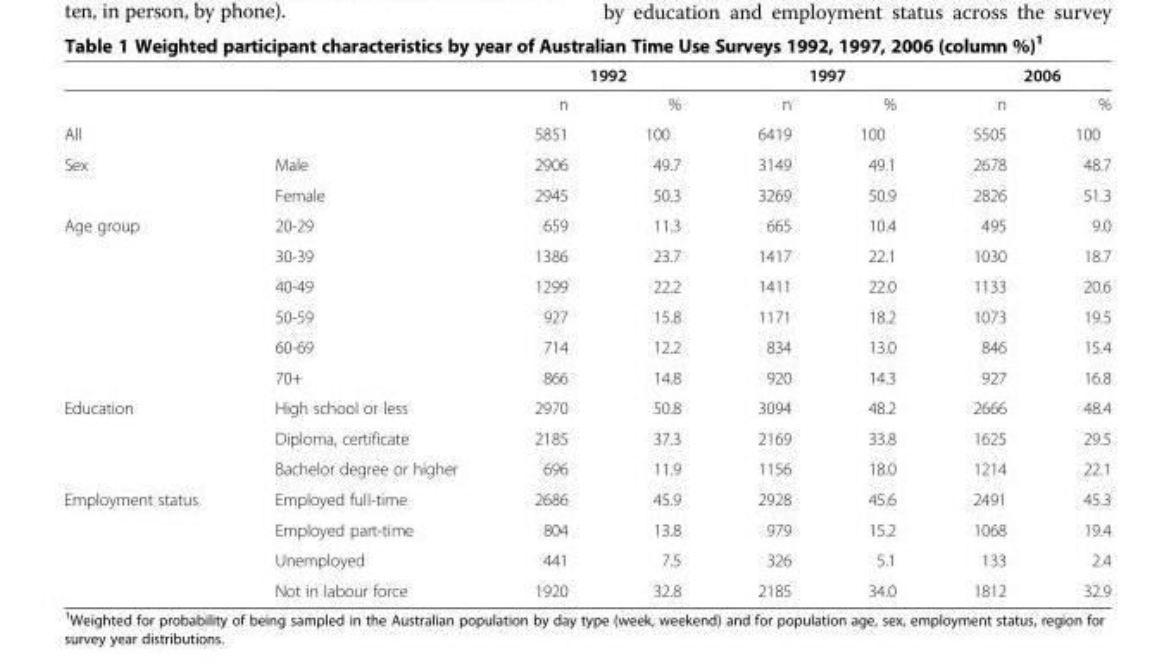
<table><thead><tr><td rowspan="2"></td><td rowspan="2"></td><td colspan="2">1992</td><td colspan="2">1997</td><td colspan="2">2006</td></tr><tr><td>n</td><td>%</td><td>n</td><td>%</td><td>n</td><td>%</td></tr></thead><tbody><tr><td>All</td><td></td><td>5851</td><td>100</td><td>6419</td><td>100</td><td>5505</td><td>100</td></tr><tr><td rowspan="2">Sex</td><td>Male</td><td>2906</td><td>49.7</td><td>3149</td><td>49.1</td><td>2678</td><td>48.7</td></tr><tr><td>Female</td><td>2945</td><td>50.3</td><td>3269</td><td>50.9</td><td>2826</td><td>51.3</td></tr><tr><td rowspan="6">Age group</td><td>20-29</td><td>659</td><td>11.3</td><td>665</td><td>10.4</td><td>495</td><td>9.0</td></tr><tr><td>30-39</td><td>1386</td><td>23.7</td><td>1417</td><td>22.1</td><td>1030</td><td>18.7</td></tr><tr><td>40-49</td><td>1299</td><td>22.2</td><td>1411</td><td>22.0</td><td>1133</td><td>20.6</td></tr><tr><td>50-59</td><td>927</td><td>15.8</td><td>1171</td><td>18.2</td><td>1073</td><td>19.5</td></tr><tr><td>60-69</td><td>714</td><td>12.2</td><td>834</td><td>13.0</td><td>846</td><td>15.4</td></tr><tr><td>70+</td><td>866</td><td>14.8</td><td>920</td><td>14.3</td><td>927</td><td>16.8</td></tr><tr><td rowspan="3">Education</td><td>High school or less</td><td>2970</td><td>50.8</td><td>3094</td><td>48.2</td><td>2666</td><td>48.4</td></tr><tr><td>Diploma, certificate</td><td>2185</td><td>37.3</td><td>2169</td><td>33.8</td><td>1625</td><td>29.5</td></tr><tr><td>Bachelor degree or higher</td><td>696</td><td>11.9</td><td>1156</td><td>18.0</td><td>1214</td><td>22.1</td></tr><tr><td rowspan="4">Employment status</td><td>Employed full-time</td><td>2686</td><td>45.9</td><td>2928</td><td>45.6</td><td>2491</td><td>45.3</td></tr><tr><td>Employed part-time</td><td>804</td><td>13.8</td><td>979</td><td>15.2</td><td>1068</td><td>19.4</td></tr><tr><td>Unemployed</td><td>441</td><td>7.5</td><td>326</td><td>5.1</td><td>133</td><td>2.4</td></tr><tr><td>Not in labour force</td><td>1920</td><td>32.8</td><td>2185</td><td>34.0</td><td>1812</td><td>32.9</td></tr></tbody></table>